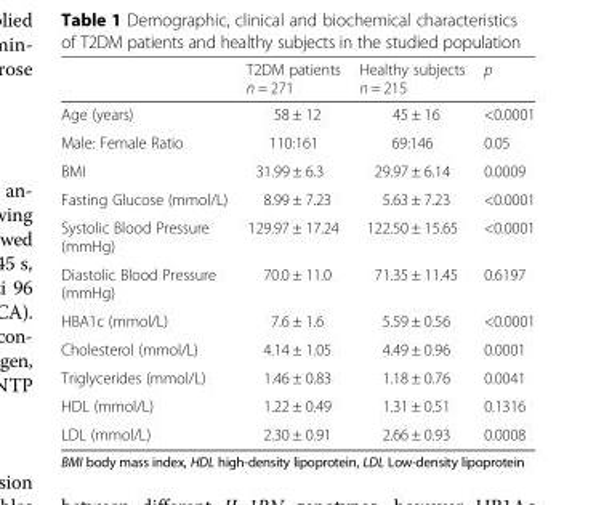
<table><thead><tr><td></td><td>T2DM patients n = 271</td><td>Healthy subjects n = 215</td><td>p</td></tr></thead><tbody><tr><td>Age (years)</td><td>58 ± 12</td><td>45 ± 16</td><td>&lt;0.0001</td></tr><tr><td>Male: Female Ratio</td><td>110:161</td><td>69:146</td><td>0.05</td></tr><tr><td>BMI</td><td>31.99 ± 6.3</td><td>29.97 ± 6.14</td><td>0.0009</td></tr><tr><td>Fasting Glucose (mmol/L)</td><td>8.99 ± 7.23</td><td>5.63 ± 7.23</td><td>&lt;0.0001</td></tr><tr><td>Systolic Blood Pressure (mmHg)</td><td>129.97 ± 17.24</td><td>122.50 ± 15.65</td><td>&lt;0.0001</td></tr><tr><td>Diastolic Blood Pressure (mmHg)</td><td>70.0 ± 11.0</td><td>71.35 ± 11.45</td><td>0.6197</td></tr><tr><td>HBA1c (mmol/L)</td><td>7.6 ± 1.6</td><td>5.59 ± 0.56</td><td>&lt;0.0001</td></tr><tr><td>Cholesterol (mmol/L)</td><td>4.14 ± 1.05</td><td>4.49 ± 0.96</td><td>0.0001</td></tr><tr><td>Triglycerides (mmol/L)</td><td>1.46 ± 0.83</td><td>1.18 ± 0.76</td><td>0.0041</td></tr><tr><td>HDL (mmol/L)</td><td>1.22 ± 0.49</td><td>1.31 ± 0.51</td><td>0.1316</td></tr><tr><td>LDL (mmol/L)</td><td>2.30 ± 0.91</td><td>2.66 ± 0.93</td><td>0.0008</td></tr></tbody></table>